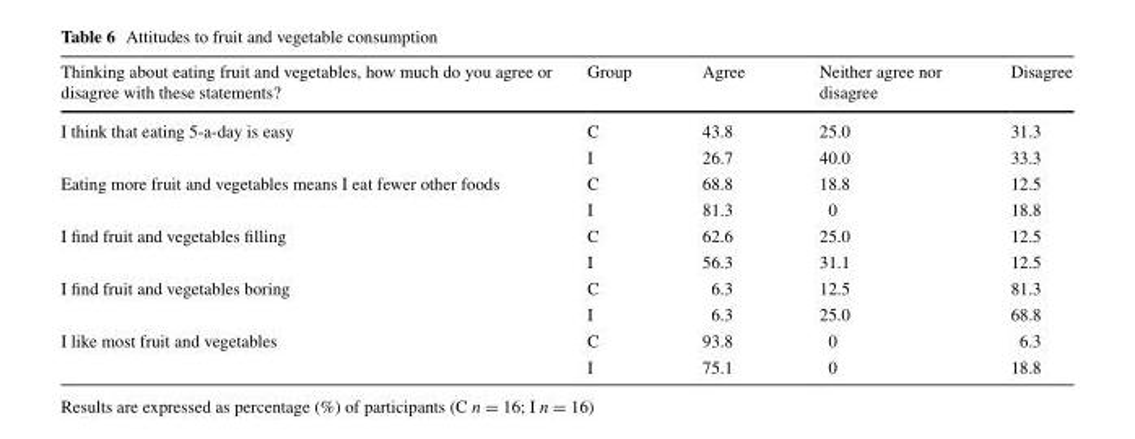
<table><thead><tr><td>Thinking about eating fruit and vegetables, how much do you agree or disagree with these statements?</td><td>Group</td><td>Agree</td><td>Neither agree nor disagree</td><td>Disagree</td></tr></thead><tbody><tr><td rowspan="2">I think that eating 5-a-day is easy</td><td>C</td><td>43.8</td><td>25.0</td><td>31.3</td></tr><tr><td>I</td><td>26.7</td><td>40.0</td><td>33.3</td></tr><tr><td rowspan="2">Eating more fruit and vegetables means I eat fewer other foods</td><td>C</td><td>68.8</td><td>18.8</td><td>12.5</td></tr><tr><td>I</td><td>81.3</td><td>0</td><td>18.8</td></tr><tr><td rowspan="2">I find fruit and vegetables filling</td><td>C</td><td>62.6</td><td>25.0</td><td>12.5</td></tr><tr><td>I</td><td>56.3</td><td>31.1</td><td>12.5</td></tr><tr><td rowspan="2">I find fruit and vegetables boring</td><td>C</td><td>6.3</td><td>12.5</td><td>81.3</td></tr><tr><td>I</td><td>6.3</td><td>25.0</td><td>68.8</td></tr><tr><td rowspan="2">I like most fruit and vegetables</td><td>C</td><td>93.8</td><td>0</td><td>6.3</td></tr><tr><td>I</td><td>75.1</td><td>0</td><td>18.8</td></tr></tbody></table>